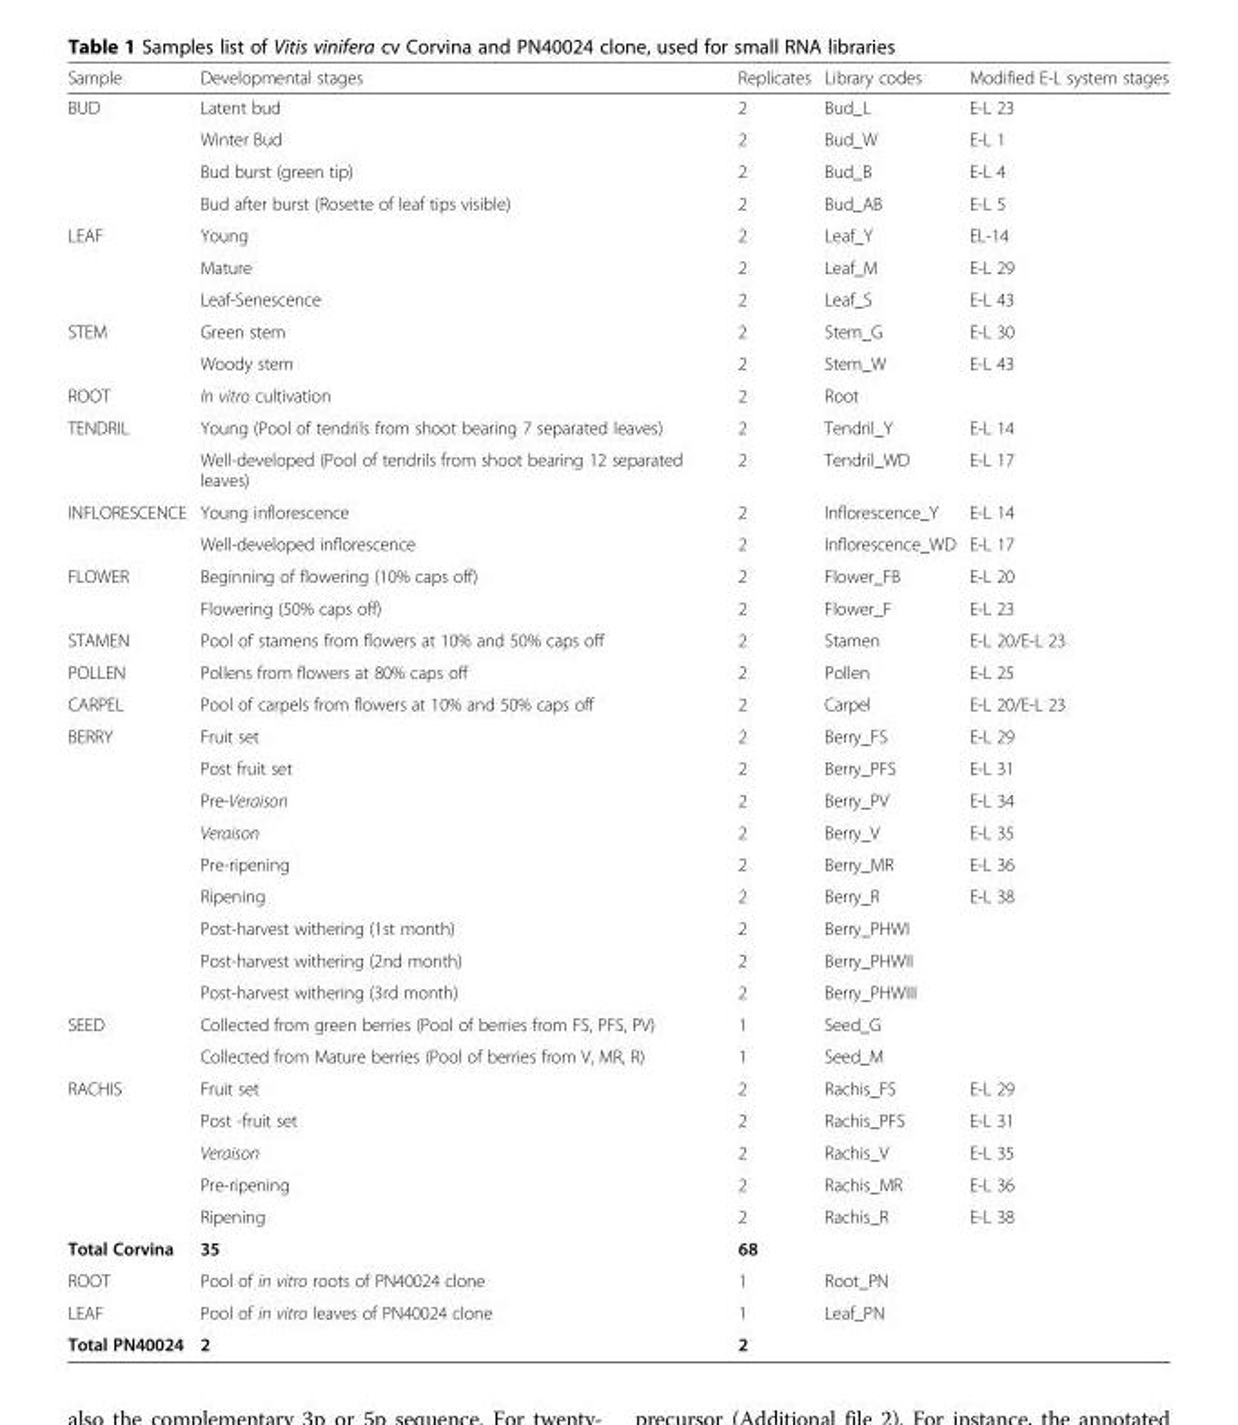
<table><thead><tr><td>Sample</td><td>Developmental stages</td><td>Replicates</td><td>Library codes</td><td>Modified E-L system stages</td></tr></thead><tbody><tr><td rowspan="4">BUD</td><td>Latent bud</td><td>2</td><td>Bud_L</td><td>E-L 23</td></tr><tr><td>Winter Bud</td><td>2</td><td>Bud_W</td><td>E-L 1</td></tr><tr><td>Bud burst (green tip)</td><td>2</td><td>Bud_B</td><td>E-L 4</td></tr><tr><td>Bud after burst (Rosette of leaf tips visible)</td><td>2</td><td>Bud_AB</td><td>E-L 5</td></tr><tr><td rowspan="3">LEAF</td><td>Young</td><td>2</td><td>Leaf_Y</td><td>EL-14</td></tr><tr><td>Mature</td><td>2</td><td>Leaf_M</td><td>E-L 29</td></tr><tr><td>Leaf-Senescence</td><td>2</td><td>Leaf_S</td><td>E-L 43</td></tr><tr><td rowspan="2">STEM</td><td>Green stem</td><td>2</td><td>Stem_G</td><td>E-L 30</td></tr><tr><td>Woody stem</td><td>2</td><td>Stem_W</td><td>E-L 43</td></tr><tr><td>ROOT</td><td>In vitro cultivation</td><td>2</td><td>Root</td><td></td></tr><tr><td rowspan="2">TENDRIL</td><td>Young (Pool of tendrils from shoot bearing 7 separated leaves)</td><td>2</td><td>Tendril_Y</td><td>E-L 14</td></tr><tr><td>Well-developed (Pool of tendrils from shoot bearing 12 separated leaves)</td><td>2</td><td>Tendril_WD</td><td>E-L 17</td></tr><tr><td rowspan="2">INFLORESCENCE</td><td>Young inflorescence</td><td>2</td><td>Inflorescence_Y</td><td>E-L 14</td></tr><tr><td>Well-developed inflorescence</td><td>2</td><td>Inflorescence_WD</td><td>E-L 17</td></tr><tr><td rowspan="2">FLOWER</td><td>Beginning of flowering (10% caps off)</td><td>2</td><td>Flower_FB</td><td>E-L 20</td></tr><tr><td>Flowering (50% caps off)</td><td>2</td><td>Flower_F</td><td>E-L 23</td></tr><tr><td>STAMEN</td><td>Pool of stamens from flowers at 10% and 50% caps off</td><td>2</td><td>Stamen</td><td>E-L 20/E-L 23</td></tr><tr><td>POLLEN</td><td>Pollens from flowers at 80% caps off</td><td>2</td><td>Pollen</td><td>E-L 25</td></tr><tr><td>CARPEL</td><td>Pool of carpels from flowers at 10% and 50% caps off</td><td>2</td><td>Carpel</td><td>E-L 20/E-L 23</td></tr><tr><td rowspan="9">BERRY</td><td>Fruit set</td><td>2</td><td>Berry_FS</td><td>E-L 29</td></tr><tr><td>Post fruit set</td><td>2</td><td>Berry_PFS</td><td>E-L 31</td></tr><tr><td>Pre-Veraison</td><td>2</td><td>Berry_PV</td><td>E-L 34</td></tr><tr><td>Veraison</td><td>2</td><td>Berry_V</td><td>E-L 35</td></tr><tr><td>Pre-ripening</td><td>2</td><td>Berry_MR</td><td>E-L 36</td></tr><tr><td>Ripening</td><td>2</td><td>Berry_R</td><td>E-L 38</td></tr><tr><td>Post-harvest withering (1st month)</td><td>2</td><td>Berry_PHWI</td><td></td></tr><tr><td>Post-harvest withering (2nd month)</td><td>2</td><td>Berry_PHWII</td><td></td></tr><tr><td>Post-harvest withering (3rd month)</td><td>2</td><td>Berry_PHWIII</td><td></td></tr><tr><td rowspan="2">SEED</td><td>Collected from green berries (Pool of berries from FS, PFS, PV)</td><td>1</td><td>Seed_G</td><td></td></tr><tr><td>Collected from Mature berries (Pool of berries from V, MR, R)</td><td>1</td><td>Seed_M</td><td></td></tr><tr><td rowspan="5">RACHIS</td><td>Fruit set</td><td>2</td><td>Rachis_FS</td><td>E-L 29</td></tr><tr><td>Post -fruit set</td><td>2</td><td>Rachis_PFS</td><td>E-L 31</td></tr><tr><td>Veraison</td><td>2</td><td>Rachis_V</td><td>E-L 35</td></tr><tr><td>Pre-ripening</td><td>2</td><td>Rachis_MR</td><td>E-L 36</td></tr><tr><td>Ripening</td><td>2</td><td>Rachis_R</td><td>E-L 38</td></tr><tr><td>Total Corvina</td><td>35</td><td>68</td><td></td><td></td></tr><tr><td>ROOT</td><td>Pool of in vitro roots of PN40024 clone</td><td>1</td><td>Root_PN</td><td></td></tr><tr><td>LEAF</td><td>Pool of in vitro leaves of PN40024 clone</td><td>1</td><td>Leaf_PN</td><td></td></tr><tr><td>Total PN40024</td><td>2</td><td>2</td><td></td><td></td></tr></tbody></table>